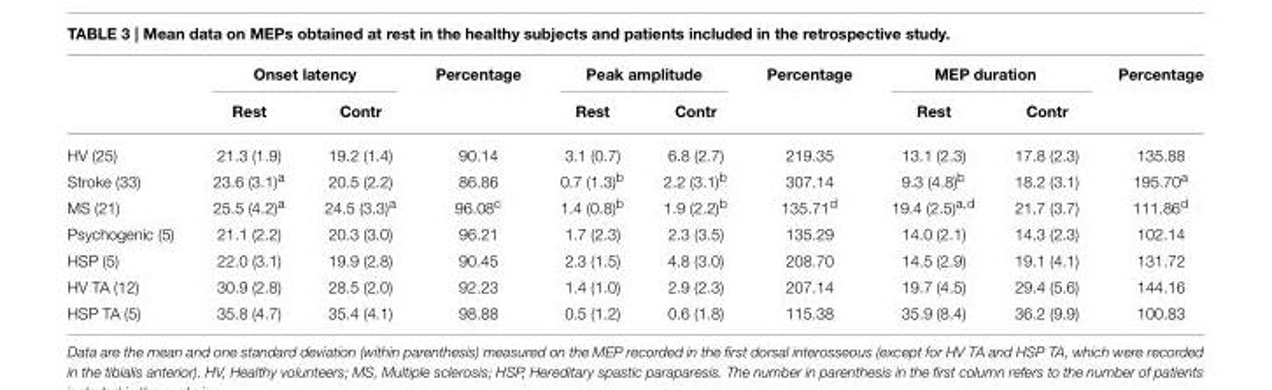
<table><thead><tr><td rowspan="2"></td><td colspan="2">Onset latency</td><td rowspan="2">Percentage</td><td colspan="2">Peak amplitude</td><td rowspan="2">Percentage</td><td colspan="2">MEP duration</td><td rowspan="2">Percentage</td></tr><tr><td>Rest</td><td>Contr</td><td>Rest</td><td>Contr</td><td>Rest</td><td>Contr</td></tr></thead><tbody><tr><td>HV (25)</td><td>21.3 (1.9)</td><td>19.2 (1.4)</td><td>90.14</td><td>3.1 (0.7)</td><td>6.8 (2.7)</td><td>219.35</td><td>13.1 (2.3)</td><td>17.8 (2.3)</td><td>135.88</td></tr><tr><td>Stroke (33)</td><td>23.6 (3.1)<sup>a</sup></td><td>20.5 (2.2)</td><td>86.86</td><td>0.7 (1.3)<sup>b</sup></td><td>2.2 (3.1)<sup>b</sup></td><td>307.14</td><td>9.3 (4.8)<sup>b</sup></td><td>18.2 (3.1)</td><td>195.70<sup>a</sup></td></tr><tr><td>MS (21)</td><td>25.5 (4.2)<sup>a</sup></td><td>24.5 (3.3)<sup>a</sup></td><td>96.08<sup>c</sup></td><td>1.4 (0.8)<sup>b</sup></td><td>1.9 (2.2)<sup>b</sup></td><td>135.71<sup>d</sup></td><td>19.4 (2.5)<sup>a,d</sup></td><td>21.7 (3.7)</td><td>111.86<sup>d</sup></td></tr><tr><td>Psychogenic (5)</td><td>21.1 (2.2)</td><td>20.3 (3.0)</td><td>96.21</td><td>1.7 (2.3)</td><td>2.3 (3.5)</td><td>135.29</td><td>14.0 (2.1)</td><td>14.3 (2.3)</td><td>102.14</td></tr><tr><td>HSP (5)</td><td>22.0 (3.1)</td><td>19.9 (2.8)</td><td>90.45</td><td>2.3 (1.5)</td><td>4.8 (3.0)</td><td>208.70</td><td>14.5 (2.9)</td><td>19.1 (4.1)</td><td>131.72</td></tr><tr><td>HV TA (12)</td><td>30.9 (2.8)</td><td>28.5 (2.0)</td><td>92.23</td><td>1.4 (1.0)</td><td>2.9 (2.3)</td><td>207.14</td><td>19.7 (4.5)</td><td>29.4 (5.6)</td><td>144.16</td></tr><tr><td>HSP TA (5)</td><td>35.8 (4.7)</td><td>35.4 (4.1)</td><td>98.88</td><td>0.5 (1.2)</td><td>0.6 (1.8)</td><td>115.38</td><td>35.9 (8.4)</td><td>36.2 (9.9)</td><td>100.83</td></tr></tbody></table>